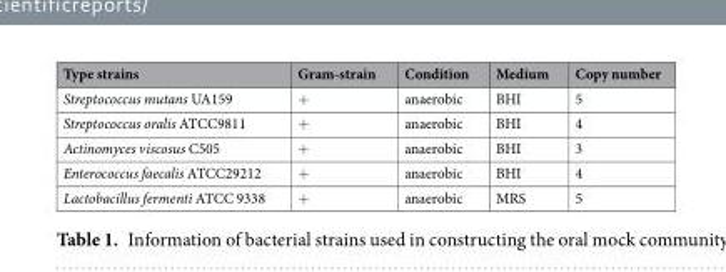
<table><thead><tr><td>Type strains</td><td>Gram-strain</td><td>Condition</td><td>Medium</td><td>Copy number</td></tr></thead><tbody><tr><td>Streptococcus mutans UA159</td><td>+</td><td>anaerobic</td><td>BHI</td><td>5</td></tr><tr><td>Streptococcus oralis ATCC9811</td><td>+</td><td>anaerobic</td><td>BHI</td><td>4</td></tr><tr><td>Actinomyces viscosus C505</td><td>+</td><td>anaerobic</td><td>BHI</td><td>3</td></tr><tr><td>Enterococcus faecalis ATCC29212</td><td>+</td><td>anaerobic</td><td>BHI</td><td>4</td></tr><tr><td>Lactobacillus fermenti ATCC 9338</td><td>+</td><td>anaerobic</td><td>MRS</td><td>5</td></tr></tbody></table>